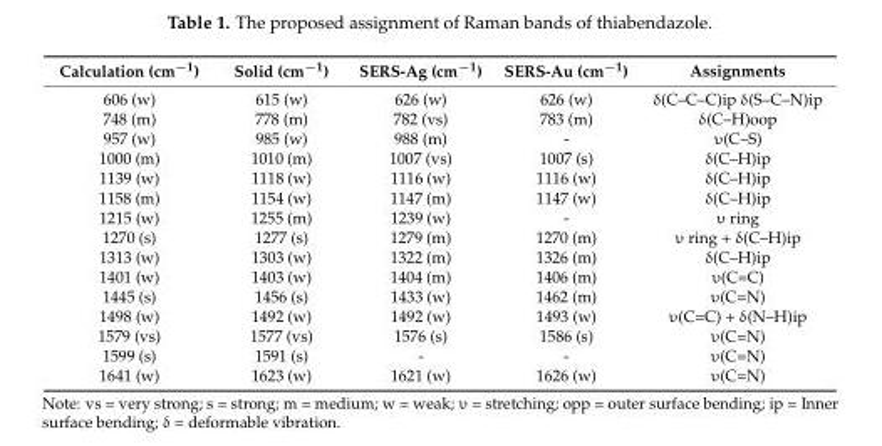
<table><thead><tr><td>Calculation (cm<sup>−1</sup>)</td><td>Solid (cm<sup>−1</sup>)</td><td>SERS-Ag (cm<sup>−1</sup>)</td><td>SERS-Au (cm<sup>−1</sup>)</td><td>Assignments</td></tr></thead><tbody><tr><td>606 (w)</td><td>615 (w)</td><td>626 (w)</td><td>626 (w)</td><td>δ(C–C–C)ip δ(S–C–N)ip</td></tr><tr><td>748 (m)</td><td>778 (m)</td><td>782 (vs)</td><td>783 (m)</td><td>δ(C–H)oop</td></tr><tr><td>957 (w)</td><td>985 (w)</td><td>988 (m)</td><td>-</td><td>υ(C–S)</td></tr><tr><td>1000 (m)</td><td>1010 (m)</td><td>1007 (vs)</td><td>1007 (s)</td><td>δ(C–H)ip</td></tr><tr><td>1139 (w)</td><td>1118 (w)</td><td>1116 (w)</td><td>1116 (w)</td><td>δ(C–H)ip</td></tr><tr><td>1158 (m)</td><td>1154 (w)</td><td>1147 (m)</td><td>1147 (w)</td><td>δ(C–H)ip</td></tr><tr><td>1215 (w)</td><td>1255 (m)</td><td>1239 (w)</td><td>-</td><td>υ ring</td></tr><tr><td>1270 (s)</td><td>1277 (s)</td><td>1279 (m)</td><td>1270 (m)</td><td>υ ring + δ(C–H)ip</td></tr><tr><td>1313 (w)</td><td>1303 (w)</td><td>1322 (m)</td><td>1326 (m)</td><td>δ(C–H)ip</td></tr><tr><td>1401 (w)</td><td>1403 (w)</td><td>1404 (m)</td><td>1406 (m)</td><td>υ(C=C)</td></tr><tr><td>1445 (s)</td><td>1456 (s)</td><td>1433 (w)</td><td>1462 (m)</td><td>υ(C=N)</td></tr><tr><td>1498 (w)</td><td>1492 (w)</td><td>1492 (w)</td><td>1493 (w)</td><td>υ(C=C) + δ(N–H)ip</td></tr><tr><td>1579 (vs)</td><td>1577 (vs)</td><td>1576 (s)</td><td>1586 (s)</td><td>υ(C=N)</td></tr><tr><td>1599 (s)</td><td>1591 (s)</td><td>-</td><td>-</td><td>υ(C=N)</td></tr><tr><td>1641 (w)</td><td>1623 (w)</td><td>1621 (w)</td><td>1626 (w)</td><td>υ(C=N)</td></tr></tbody></table>